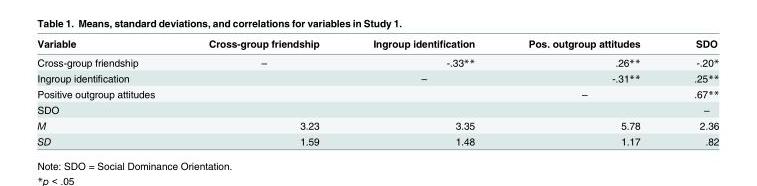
<table><thead><tr><td>Variable</td><td>Cross-group friendship</td><td>Ingroup identification</td><td>Pos. outgroup attitudes</td><td>SDO</td></tr></thead><tbody><tr><td>Cross-group friendship</td><td>–</td><td>-.33**</td><td>.26**</td><td>-.20*</td></tr><tr><td>Ingroup identification</td><td></td><td>–</td><td>-.31**</td><td>.25**</td></tr><tr><td>Positive outgroup attitudes</td><td></td><td></td><td>–</td><td>.67**</td></tr><tr><td>SDO</td><td></td><td></td><td></td><td>–</td></tr><tr><td>M</td><td>3.23</td><td>3.35</td><td>5.78</td><td>2.36</td></tr><tr><td>SD</td><td>1.59</td><td>1.48</td><td>1.17</td><td>.82</td></tr></tbody></table>